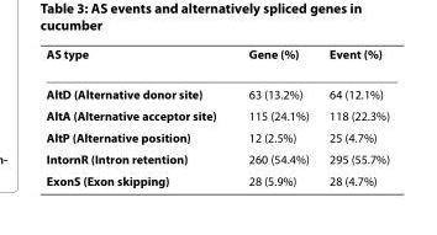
<table><thead><tr><td>AS type</td><td>Gene (%)</td><td>Event (%)</td></tr></thead><tbody><tr><td>AltD (Alternative donor site)</td><td>63 (13.2%)</td><td>64 (12.1%)</td></tr><tr><td>AltA (Alternative acceptor site)</td><td>115 (24.1%)</td><td>118 (22.3%)</td></tr><tr><td>AltP (Alternative position)</td><td>12 (2.5%)</td><td>25 (4.7%)</td></tr><tr><td>IntornR (Intron retention)</td><td>260 (54.4%)</td><td>295 (55.7%)</td></tr><tr><td>ExonS (Exon skipping)</td><td>28 (5.9%)</td><td>28 (4.7%)</td></tr></tbody></table>